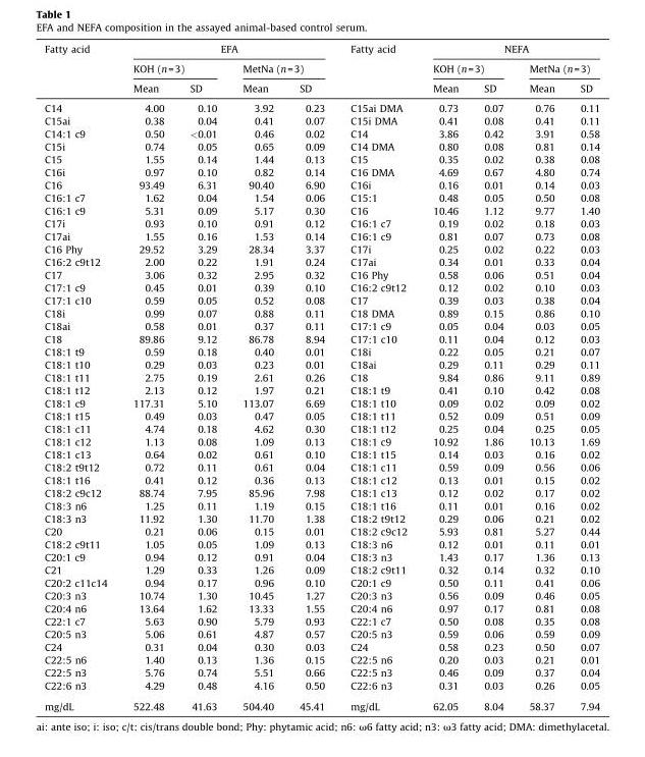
<table><thead><tr><td rowspan="3">Fatty acid</td><td colspan="4">EFA</td><td rowspan="3">Fatty acid</td><td colspan="4">NEFA</td></tr><tr><td colspan="2">KOH (n=3)</td><td colspan="2">MetNa (n=3)</td><td colspan="2">KOH (n=3)</td><td colspan="2">MetNa (n=3)</td></tr><tr><td>Mean</td><td>SD</td><td>Mean</td><td>SD</td><td>Mean</td><td>SD</td><td>Mean</td><td>SD</td></tr></thead><tbody><tr><td>C14</td><td>4.00</td><td>0.10</td><td>3.92</td><td>0.23</td><td>C15ai DMA</td><td>0.73</td><td>0.07</td><td>0.76</td><td>0.11</td></tr><tr><td>C15ai</td><td>0.38</td><td>0.04</td><td>0.41</td><td>0.07</td><td>C15i DMA</td><td>0.41</td><td>0.08</td><td>0.41</td><td>0.11</td></tr><tr><td>C14:1 c9</td><td>0.50</td><td>&lt;0.01</td><td>0.46</td><td>0.02</td><td>C14</td><td>3.86</td><td>0.42</td><td>3.91</td><td>0.58</td></tr><tr><td>C15i</td><td>0.74</td><td>0.05</td><td>0.65</td><td>0.09</td><td>C14 DMA</td><td>0.80</td><td>0.08</td><td>0.81</td><td>0.14</td></tr><tr><td>C15</td><td>1.55</td><td>0.14</td><td>1.44</td><td>0.13</td><td>C15</td><td>0.35</td><td>0.02</td><td>0.38</td><td>0.08</td></tr><tr><td>C16i</td><td>0.97</td><td>0.10</td><td>0.82</td><td>0.14</td><td>C16 DMA</td><td>4.69</td><td>0.67</td><td>4.80</td><td>0.74</td></tr><tr><td>C16</td><td>93.49</td><td>6.31</td><td>90.40</td><td>6.90</td><td>C16i</td><td>0.16</td><td>0.01</td><td>0.14</td><td>0.03</td></tr><tr><td>C16:1 c7</td><td>1.62</td><td>0.04</td><td>1.54</td><td>0.06</td><td>C15:1</td><td>0.48</td><td>0.05</td><td>0.50</td><td>0.08</td></tr><tr><td>C16:1 c9</td><td>5.31</td><td>0.09</td><td>5.17</td><td>0.30</td><td>C16</td><td>10.46</td><td>1.12</td><td>9.77</td><td>1.40</td></tr><tr><td>C17i</td><td>0.93</td><td>0.10</td><td>0.91</td><td>0.12</td><td>C16:1 c7</td><td>0.19</td><td>0.02</td><td>0.18</td><td>0.03</td></tr><tr><td>C17ai</td><td>1.55</td><td>0.16</td><td>1.53</td><td>0.14</td><td>C16:1 c9</td><td>0.81</td><td>0.07</td><td>0.73</td><td>0.08</td></tr><tr><td>C16 Phy</td><td>29.52</td><td>3.29</td><td>28.34</td><td>3.37</td><td>C17i</td><td>0.25</td><td>0.02</td><td>0.22</td><td>0.03</td></tr><tr><td>C16:2 c9t12</td><td>2.00</td><td>0.22</td><td>1.91</td><td>0.24</td><td>C17ai</td><td>0.34</td><td>0.01</td><td>0.33</td><td>0.04</td></tr><tr><td>C17</td><td>3.06</td><td>0.32</td><td>2.95</td><td>0.32</td><td>C16 Phy</td><td>0.58</td><td>0.06</td><td>0.51</td><td>0.04</td></tr><tr><td>C17:1 c9</td><td>0.45</td><td>0.01</td><td>0.39</td><td>0.10</td><td>C16:2 c9t12</td><td>0.12</td><td>0.02</td><td>0.10</td><td>0.03</td></tr><tr><td>C17:1 c10</td><td>0.59</td><td>0.05</td><td>0.52</td><td>0.08</td><td>C17</td><td>0.39</td><td>0.03</td><td>0.38</td><td>0.04</td></tr><tr><td>C18i</td><td>0.99</td><td>0.07</td><td>0.88</td><td>0.11</td><td>C18 DMA</td><td>0.89</td><td>0.15</td><td>0.86</td><td>0.10</td></tr><tr><td>C18ai</td><td>0.58</td><td>0.01</td><td>0.37</td><td>0.11</td><td>C17:1 c9</td><td>0.05</td><td>0.04</td><td>0.03</td><td>0.05</td></tr><tr><td>C18</td><td>89.86</td><td>9.12</td><td>86.78</td><td>8.94</td><td>C17:1 c10</td><td>0.11</td><td>0.04</td><td>0.12</td><td>0.03</td></tr><tr><td>C18:1 t9</td><td>0.59</td><td>0.18</td><td>0.40</td><td>0.01</td><td>C18i</td><td>0.22</td><td>0.05</td><td>0.21</td><td>0.07</td></tr><tr><td>C18:1 t10</td><td>0.29</td><td>0.03</td><td>0.23</td><td>0.01</td><td>C18ai</td><td>0.29</td><td>0.11</td><td>0.29</td><td>0.11</td></tr><tr><td>C18:1 t11</td><td>2.75</td><td>0.19</td><td>2.61</td><td>0.26</td><td>C18</td><td>9.84</td><td>0.86</td><td>9.11</td><td>0.89</td></tr><tr><td>C18:1 t12</td><td>2.13</td><td>0.12</td><td>1.97</td><td>0.21</td><td>C18:1 t9</td><td>0.41</td><td>0.10</td><td>0.42</td><td>0.08</td></tr><tr><td>C18:1 c9</td><td>117.31</td><td>5.10</td><td>113.07</td><td>6.69</td><td>C18:1 t10</td><td>0.09</td><td>0.02</td><td>0.09</td><td>0.02</td></tr><tr><td>C18:1 t15</td><td>0.49</td><td>0.03</td><td>0.47</td><td>0.05</td><td>C18:1 t11</td><td>0.52</td><td>0.09</td><td>0.51</td><td>0.09</td></tr><tr><td>C18:1 c11</td><td>4.74</td><td>0.18</td><td>4.62</td><td>0.30</td><td>C18:1 t12</td><td>0.25</td><td>0.04</td><td>0.25</td><td>0.05</td></tr><tr><td>C18:1 c12</td><td>1.13</td><td>0.08</td><td>1.09</td><td>0.13</td><td>C18:1 c9</td><td>10.92</td><td>1.86</td><td>10.13</td><td>1.69</td></tr><tr><td>C18:1 c13</td><td>0.64</td><td>0.02</td><td>0.61</td><td>0.10</td><td>C18:1 t15</td><td>0.14</td><td>0.03</td><td>0.16</td><td>0.02</td></tr><tr><td>C18:2 t9t12</td><td>0.72</td><td>0.11</td><td>0.61</td><td>0.04</td><td>C18:1 c11</td><td>0.59</td><td>0.09</td><td>0.56</td><td>0.06</td></tr><tr><td>C18:1 t16</td><td>0.41</td><td>0.12</td><td>0.36</td><td>0.13</td><td>C18:1 c12</td><td>0.13</td><td>0.01</td><td>0.15</td><td>0.02</td></tr><tr><td>C18:2 c9c12</td><td>88.74</td><td>7.95</td><td>85.96</td><td>7.98</td><td>C18:1 c13</td><td>0.12</td><td>0.02</td><td>0.17</td><td>0.02</td></tr><tr><td>C18:3 n6</td><td>1.25</td><td>0.11</td><td>1.19</td><td>0.15</td><td>C18:1 t16</td><td>0.11</td><td>0.01</td><td>0.16</td><td>0.02</td></tr><tr><td>C18:3 n3</td><td>11.92</td><td>1.30</td><td>11.70</td><td>1.38</td><td>C18:2 t9t12</td><td>0.29</td><td>0.06</td><td>0.21</td><td>0.02</td></tr><tr><td>C20</td><td>0.21</td><td>0.06</td><td>0.15</td><td>0.01</td><td>C18:2 c9c12</td><td>5.93</td><td>0.81</td><td>5.27</td><td>0.44</td></tr><tr><td>C18:2 c9t11</td><td>1.05</td><td>0.05</td><td>1.09</td><td>0.13</td><td>C18:3 n6</td><td>0.12</td><td>0.01</td><td>0.11</td><td>0.01</td></tr><tr><td>C20:1 c9</td><td>0.94</td><td>0.12</td><td>0.91</td><td>0.04</td><td>C18:3 n3</td><td>1.43</td><td>0.17</td><td>1.36</td><td>0.13</td></tr><tr><td>C21</td><td>1.29</td><td>0.33</td><td>1.26</td><td>0.09</td><td>C18:2 c9t11</td><td>0.32</td><td>0.14</td><td>0.32</td><td>0.10</td></tr><tr><td>C20:2 c11c14</td><td>0.94</td><td>0.17</td><td>0.96</td><td>0.10</td><td>C20:1 c9</td><td>0.50</td><td>0.11</td><td>0.41</td><td>0.06</td></tr><tr><td>C20:3 n3</td><td>10.74</td><td>1.30</td><td>10.45</td><td>1.27</td><td>C20:3 n3</td><td>0.56</td><td>0.09</td><td>0.46</td><td>0.05</td></tr><tr><td>C20:4 n6</td><td>13.64</td><td>1.62</td><td>13.33</td><td>1.55</td><td>C20:4 n6</td><td>0.97</td><td>0.17</td><td>0.81</td><td>0.08</td></tr><tr><td>C22:1 c7</td><td>5.63</td><td>0.90</td><td>5.79</td><td>0.93</td><td>C22:1 c7</td><td>0.50</td><td>0.08</td><td>0.35</td><td>0.08</td></tr><tr><td>C20:5 n3</td><td>5.06</td><td>0.61</td><td>4.87</td><td>0.57</td><td>C20:5 n3</td><td>0.59</td><td>0.06</td><td>0.59</td><td>0.09</td></tr><tr><td>C24</td><td>0.31</td><td>0.04</td><td>0.30</td><td>0.03</td><td>C24</td><td>0.58</td><td>0.23</td><td>0.50</td><td>0.07</td></tr><tr><td>C22:5 n6</td><td>1.40</td><td>0.13</td><td>1.36</td><td>0.15</td><td>C22:5 n6</td><td>0.20</td><td>0.03</td><td>0.21</td><td>0.01</td></tr><tr><td>C22:5 n3</td><td>5.76</td><td>0.74</td><td>5.51</td><td>0.66</td><td>C22:5 n3</td><td>0.46</td><td>0.09</td><td>0.37</td><td>0.04</td></tr><tr><td>C22:6 n3</td><td>4.29</td><td>0.48</td><td>4.16</td><td>0.50</td><td>C22:6 n3</td><td>0.31</td><td>0.03</td><td>0.26</td><td>0.05</td></tr><tr><td>mg/dL</td><td>522.48</td><td>41.63</td><td>504.40</td><td>45.41</td><td>mg/dL</td><td>62.05</td><td>8.04</td><td>58.37</td><td>7.94</td></tr></tbody></table>